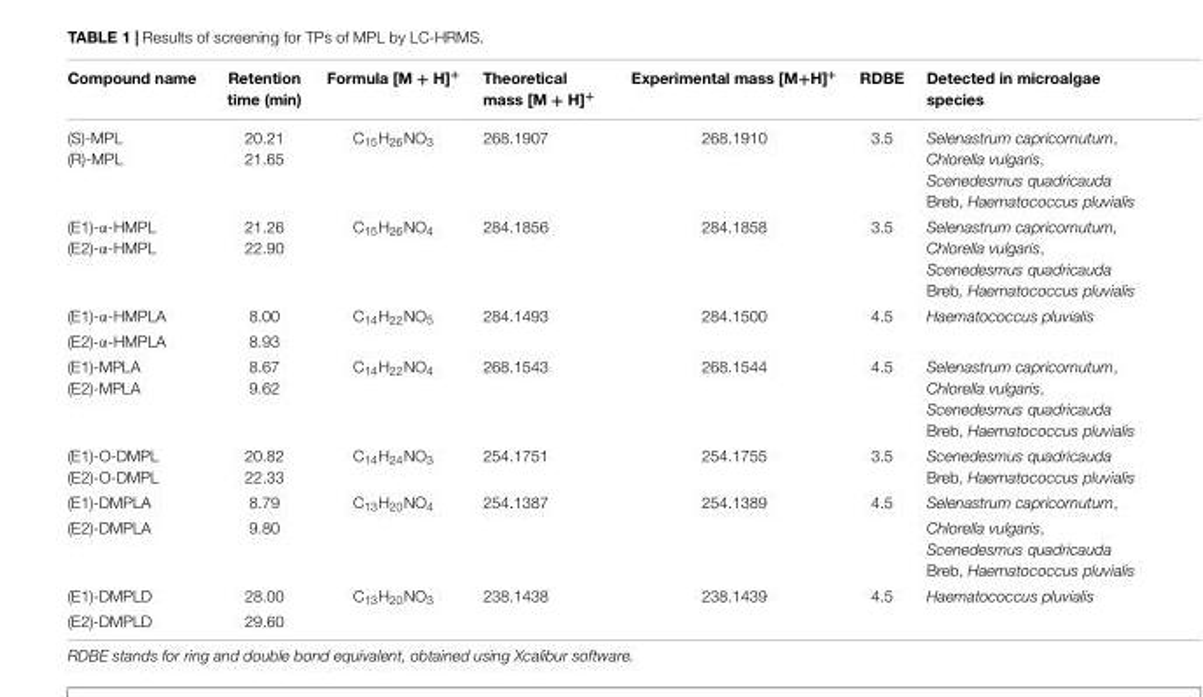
<table><thead><tr><td>Compound name</td><td>Retention time (min)</td><td>Formula [M + H]<sup>+</sup></td><td>Theoretical mass [M + H]<sup>+</sup></td><td>Experimental mass [M+H]<sup>+</sup></td><td>RDBE</td><td>Detected in microalgae species</td></tr></thead><tbody><tr><td>(S)-MPL (R)-MPL</td><td>20.21 21.65</td><td>C<sub>15</sub>H<sub>26</sub>NO<sub>3</sub></td><td>268.1907</td><td>268.1910</td><td>3.5</td><td>Selenastrum capricornutum, Chlorella vulgaris, Scenedesmus quadricauda Breb, Haematococcus pluvialis</td></tr><tr><td>(E1)-α-HMPL (E2)-α-HMPL</td><td>21.26 22.90</td><td>C<sub>15</sub>H<sub>26</sub>NO<sub>4</sub></td><td>284.1856</td><td>284.1858</td><td>3.5</td><td>Selenastrum capricornutum, Chlorella vulgaris, Scenedesmus quadricauda Breb, Haematococcus pluvialis</td></tr><tr><td>(E1)-α-HMPLA</td><td>8.00</td><td>C<sub>14</sub>H<sub>22</sub>NO<sub>5</sub></td><td>284.1493</td><td>284.1500</td><td>4.5</td><td>Haematococcus pluvialis</td></tr><tr><td>(E2)-α-HMPLA</td><td>8.93</td><td></td><td></td><td></td><td></td><td></td></tr><tr><td>(E1)-MPLA (E2)-MPLA</td><td>8.67 9.62</td><td>C<sub>14</sub>H<sub>22</sub>NO<sub>4</sub></td><td>268.1543</td><td>268.1544</td><td>4.5</td><td>Selenastrum capricornutum, Chlorella vulgaris, Scenedesmus quadricauda Breb, Haematococcus pluvialis</td></tr><tr><td>(E1)-O-DMPL (E2)-O-DMPL</td><td>20.82 22.33</td><td>C<sub>14</sub>H<sub>24</sub>NO<sub>3</sub></td><td>254.1751</td><td>254.1755</td><td>3.5</td><td>Scenedesmus quadricauda Breb, Haematococcus pluvialis</td></tr><tr><td>(E1)-DMPLA</td><td>8.79</td><td>C<sub>13</sub>H<sub>20</sub>NO<sub>4</sub></td><td>254.1387</td><td>254.1389</td><td>4.5</td><td>Selenastrum capricornutum,</td></tr><tr><td>(E2)-DMPLA</td><td>9.80</td><td></td><td></td><td></td><td></td><td>Chlorella vulgaris, Scenedesmus quadricauda Breb, Haematococcus pluvialis</td></tr><tr><td>(E1)-DMPLD</td><td>28.00</td><td>C<sub>13</sub>H<sub>20</sub>NO<sub>3</sub></td><td>238.1438</td><td>238.1439</td><td>4.5</td><td>Haematococcus pluvialis</td></tr><tr><td>(E2)-DMPLD</td><td>29.60</td><td></td><td></td><td></td><td></td><td></td></tr></tbody></table>